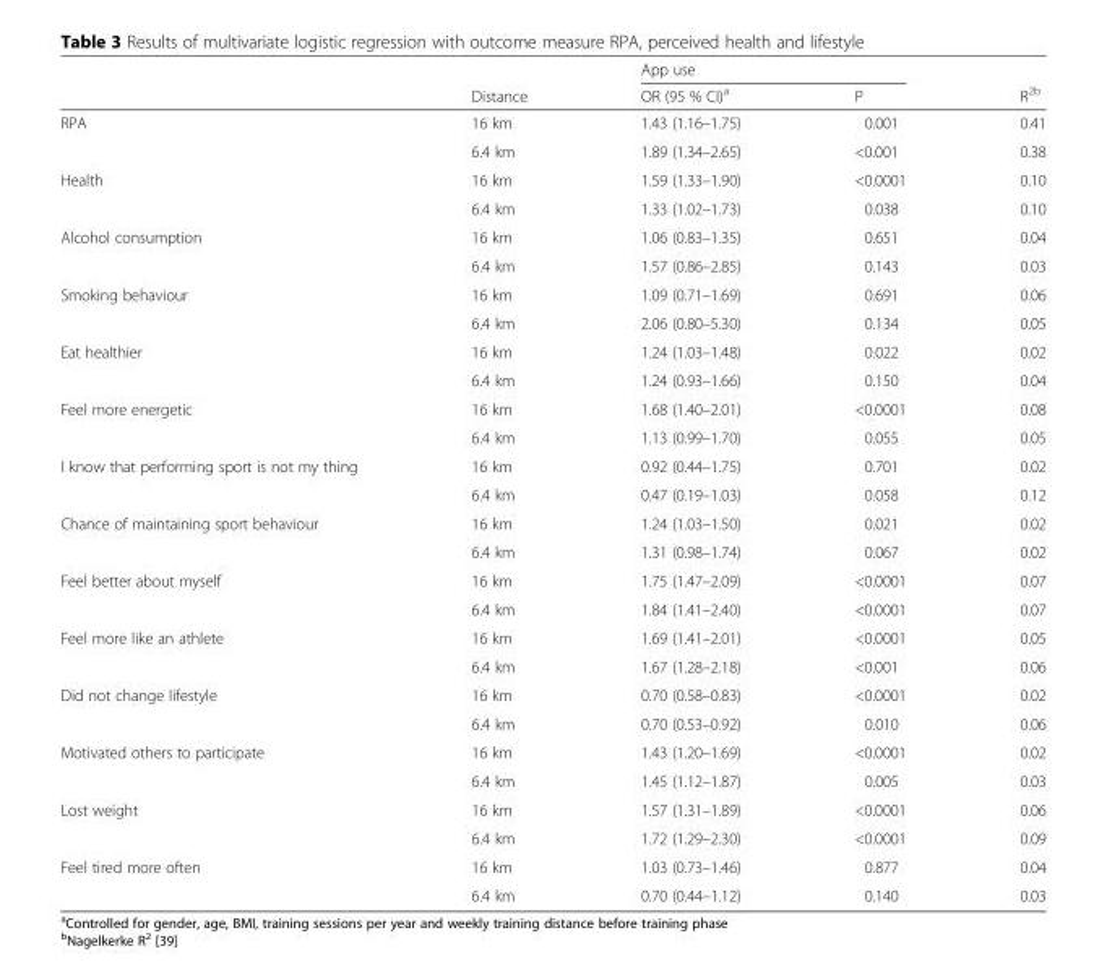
<table><thead><tr><td rowspan="2"></td><td rowspan="2">Distance</td><td colspan="2">App use</td><td rowspan="2">R<sup>2b</sup></td></tr><tr><td>OR (95 % CI)<sup>a</sup></td><td>P</td></tr></thead><tbody><tr><td rowspan="2">RPA</td><td>16 km</td><td>1.43 (1.16–1.75)</td><td>0.001</td><td>0.41</td></tr><tr><td>6.4 km</td><td>1.89 (1.34–2.65)</td><td>&lt;0.001</td><td>0.38</td></tr><tr><td rowspan="2">Health</td><td>16 km</td><td>1.59 (1.33–1.90)</td><td>&lt;0.0001</td><td>0.10</td></tr><tr><td>6.4 km</td><td>1.33 (1.02–1.73)</td><td>0.038</td><td>0.10</td></tr><tr><td rowspan="2">Alcohol consumption</td><td>16 km</td><td>1.06 (0.83–1.35)</td><td>0.651</td><td>0.04</td></tr><tr><td>6.4 km</td><td>1.57 (0.86–2.85)</td><td>0.143</td><td>0.03</td></tr><tr><td rowspan="2">Smoking behaviour</td><td>16 km</td><td>1.09 (0.71–1.69)</td><td>0.691</td><td>0.06</td></tr><tr><td>6.4 km</td><td>2.06 (0.80–5.30)</td><td>0.134</td><td>0.05</td></tr><tr><td rowspan="2">Eat healthier</td><td>16 km</td><td>1.24 (1.03–1.48)</td><td>0.022</td><td>0.02</td></tr><tr><td>6.4 km</td><td>1.24 (0.93–1.66)</td><td>0.150</td><td>0.04</td></tr><tr><td rowspan="2">Feel more energetic</td><td>16 km</td><td>1.68 (1.40–2.01)</td><td>&lt;0.0001</td><td>0.08</td></tr><tr><td>6.4 km</td><td>1.13 (0.99–1.70)</td><td>0.055</td><td>0.05</td></tr><tr><td rowspan="2">I know that performing sport is not my thing</td><td>16 km</td><td>0.92 (0.44–1.75)</td><td>0.701</td><td>0.02</td></tr><tr><td>6.4 km</td><td>0.47 (0.19–1.03)</td><td>0.058</td><td>0.12</td></tr><tr><td rowspan="2">Chance of maintaining sport behaviour</td><td>16 km</td><td>1.24 (1.03–1.50)</td><td>0.021</td><td>0.02</td></tr><tr><td>6.4 km</td><td>1.31 (0.98–1.74)</td><td>0.067</td><td>0.02</td></tr><tr><td rowspan="2">Feel better about myself</td><td>16 km</td><td>1.75 (1.47–2.09)</td><td>&lt;0.0001</td><td>0.07</td></tr><tr><td>6.4 km</td><td>1.84 (1.41–2.40)</td><td>&lt;0.0001</td><td>0.07</td></tr><tr><td rowspan="2">Feel more like an athlete</td><td>16 km</td><td>1.69 (1.41–2.01)</td><td>&lt;0.0001</td><td>0.05</td></tr><tr><td>6.4 km</td><td>1.67 (1.28–2.18)</td><td>&lt;0.001</td><td>0.06</td></tr><tr><td rowspan="2">Did not change lifestyle</td><td>16 km</td><td>0.70 (0.58–0.83)</td><td>&lt;0.0001</td><td>0.02</td></tr><tr><td>6.4 km</td><td>0.70 (0.53–0.92)</td><td>0.010</td><td>0.06</td></tr><tr><td rowspan="2">Motivated others to participate</td><td>16 km</td><td>1.43 (1.20–1.69)</td><td>&lt;0.0001</td><td>0.02</td></tr><tr><td>6.4 km</td><td>1.45 (1.12–1.87)</td><td>0.005</td><td>0.03</td></tr><tr><td rowspan="2">Lost weight</td><td>16 km</td><td>1.57 (1.31–1.89)</td><td>&lt;0.0001</td><td>0.06</td></tr><tr><td>6.4 km</td><td>1.72 (1.29–2.30)</td><td>&lt;0.0001</td><td>0.09</td></tr><tr><td rowspan="2">Feel tired more often</td><td>16 km</td><td>1.03 (0.73–1.46)</td><td>0.877</td><td>0.04</td></tr><tr><td>6.4 km</td><td>0.70 (0.44–1.12)</td><td>0.140</td><td>0.03</td></tr></tbody></table>